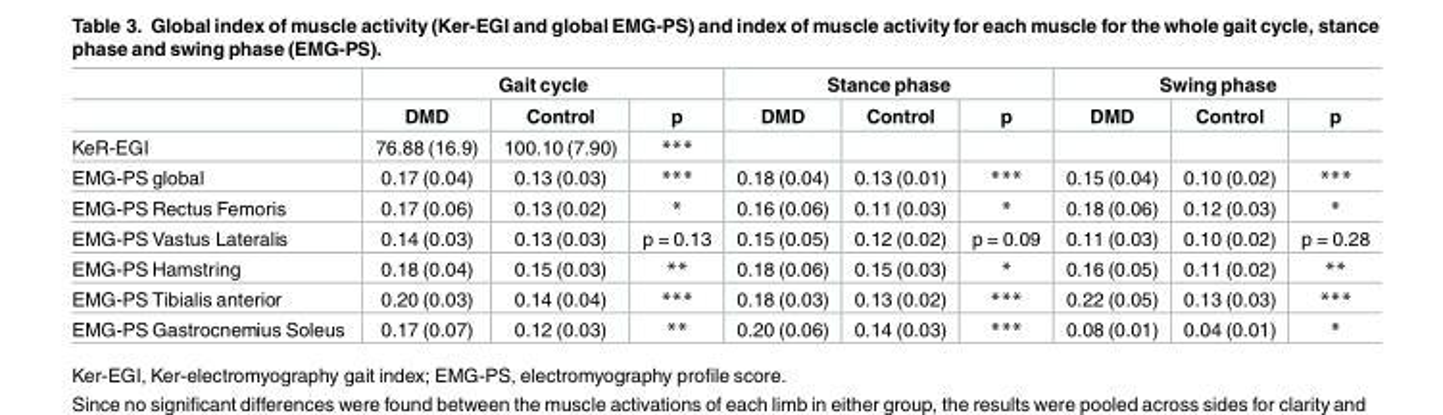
<table><thead><tr><td rowspan="2"></td><td colspan="3">Gait cycle</td><td colspan="3">Stance phase</td><td colspan="3">Swing phase</td></tr><tr><td>DMD</td><td>Control</td><td>p</td><td>DMD</td><td>Control</td><td>p</td><td>DMD</td><td>Control</td><td>p</td></tr></thead><tbody><tr><td>KeR-EGI</td><td>76.88 (16.9)</td><td>100.10 (7.90)</td><td>***</td><td></td><td></td><td></td><td></td><td></td><td></td></tr><tr><td>EMG-PS global</td><td>0.17 (0.04)</td><td>0.13 (0.03)</td><td>***</td><td>0.18 (0.04)</td><td>0.13 (0.01)</td><td>***</td><td>0.15 (0.04)</td><td>0.10 (0.02)</td><td>***</td></tr><tr><td>EMG-PS Rectus Femoris</td><td>0.17 (0.06)</td><td>0.13 (0.02)</td><td>*</td><td>0.16 (0.06)</td><td>0.11 (0.03)</td><td>*</td><td>0.18 (0.06)</td><td>0.12 (0.03)</td><td>*</td></tr><tr><td>EMG-PS Vastus Lateralis</td><td>0.14 (0.03)</td><td>0.13 (0.03)</td><td>p = 0.13</td><td>0.15 (0.05)</td><td>0.12 (0.02)</td><td>p = 0.09</td><td>0.11 (0.03)</td><td>0.10 (0.02)</td><td>p = 0.28</td></tr><tr><td>EMG-PS Hamstring</td><td>0.18 (0.04)</td><td>0.15 (0.03)</td><td>**</td><td>0.18 (0.06)</td><td>0.15 (0.03)</td><td>*</td><td>0.16 (0.05)</td><td>0.11 (0.02)</td><td>**</td></tr><tr><td>EMG-PS Tibialis anterior</td><td>0.20 (0.03)</td><td>0.14 (0.04)</td><td>***</td><td>0.18 (0.03)</td><td>0.13 (0.02)</td><td>***</td><td>0.22 (0.05)</td><td>0.13 (0.03)</td><td>***</td></tr><tr><td>EMG-PS Gastrocnemius Soleus</td><td>0.17 (0.07)</td><td>0.12 (0.03)</td><td>**</td><td>0.20 (0.06)</td><td>0.14 (0.03)</td><td>***</td><td>0.08 (0.01)</td><td>0.04 (0.01)</td><td>*</td></tr></tbody></table>